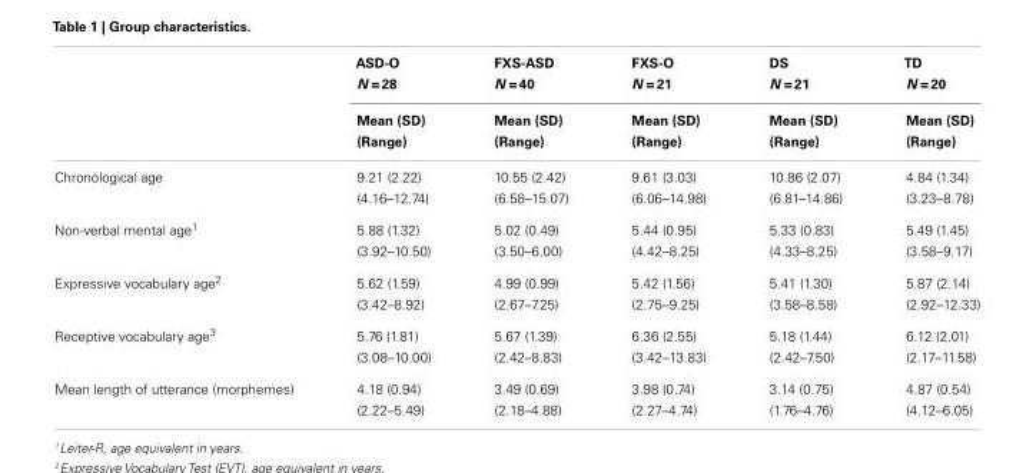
<table><thead><tr><td rowspan="4"></td><td rowspan="4">ASD-O N = 28 Mean (SD) (Range)</td><td rowspan="4">FXS-ASD N = 40 Mean (SD) (Range)</td><td rowspan="4">FXS-O N = 21 Mean (SD) (Range)</td><td rowspan="4">DS N = 21 Mean (SD) (Range)</td><td rowspan="4">TD N = 20 Mean (SD) (Range)</td></tr><tr></tr><tr></tr><tr></tr></thead><tbody><tr><td rowspan="2">Chronological age</td><td>9.21 (2.22)</td><td>10.55 (2.42)</td><td>9.61 (3.03)</td><td>10.86 (2.07)</td><td>4.84 (1.34)</td></tr><tr><td>(4.16–12.74)</td><td>(6.58–15.07)</td><td>(6.06–14.98)</td><td>(6.81–14.86)</td><td>(3.23–8.78)</td></tr><tr><td rowspan="2">Non-verbal mental age<sup>1</sup></td><td>5.88 (1.32)</td><td>5.02 (0.49)</td><td>5.44 (0.95)</td><td>5.33 (0.83)</td><td>5.49 (1.45)</td></tr><tr><td>(3.92–10.50)</td><td>(3.50–6.00)</td><td>(4.42–8.25)</td><td>(4.33–8.25)</td><td>(3.58–9.17)</td></tr><tr><td rowspan="2">Expressive vocabulary age<sup>2</sup></td><td>5.62 (1.59)</td><td>4.99 (0.99)</td><td>5.42 (1.56)</td><td>5.41 (1.30)</td><td>5.87 (2.14)</td></tr><tr><td>(3.42–8.92)</td><td>(2.67–7.25)</td><td>(2.75–9.25)</td><td>(3.58–8.58)</td><td>(2.92–12.33)</td></tr><tr><td rowspan="2">Receptive vocabulary age<sup>3</sup></td><td>5.76 (1.81)</td><td>5.67 (1.39)</td><td>6.36 (2.55)</td><td>5.18 (1.44)</td><td>6.12 (2.01)</td></tr><tr><td>(3.08–10.00)</td><td>(2.42–8.83)</td><td>(3.42–13.83)</td><td>(2.42–7.50)</td><td>(2.17–11.58)</td></tr><tr><td rowspan="2">Mean length of utterance (morphemes)</td><td>4.18 (0.94)</td><td>3.49 (0.69)</td><td>3.98 (0.74)</td><td>3.14 (0.75)</td><td>4.87 (0.54)</td></tr><tr><td>(2.22–5.49)</td><td>(2.18–4.88)</td><td>(2.27–4.74)</td><td>(1.76–4.76)</td><td>(4.12–6.05)</td></tr></tbody></table>